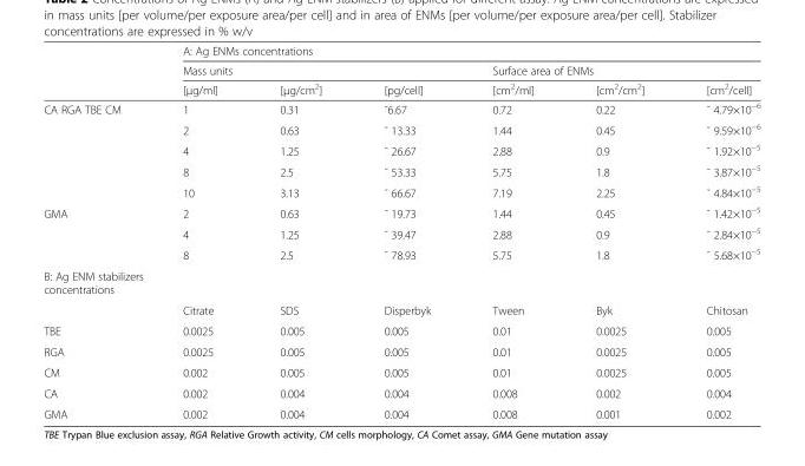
<table><thead><tr><td rowspan="3"></td><td colspan="6">A: Ag ENMs concentrations</td></tr><tr><td colspan="3">Mass units</td><td colspan="3">Surface area of ENMs</td></tr><tr><td>[μg/ml]</td><td>[μg/cm<sup>2</sup>]</td><td>[pg/cell]</td><td>[cm<sup>2</sup>/ml]</td><td>[cm<sup>2</sup>/cm<sup>2</sup>]</td><td>[cm<sup>2</sup>/cell]</td></tr></thead><tbody><tr><td rowspan="5">CA RGA TBE CM</td><td>1</td><td>0.31</td><td>˜6.67</td><td>0.72</td><td>0.22</td><td>˜ 4.79×10<sup>−6</sup></td></tr><tr><td>2</td><td>0.63</td><td>˜ 13.33</td><td>1.44</td><td>0.45</td><td>˜ 9.59×10<sup>−6</sup></td></tr><tr><td>4</td><td>1.25</td><td>˜ 26.67</td><td>2.88</td><td>0.9</td><td>˜ 1.92×10<sup>−5</sup></td></tr><tr><td>8</td><td>2.5</td><td>˜ 53.33</td><td>5.75</td><td>1.8</td><td>˜ 3.87×10<sup>−5</sup></td></tr><tr><td>10</td><td>3.13</td><td>˜ 66.67</td><td>7.19</td><td>2.25</td><td>˜ 4.84×10<sup>−5</sup></td></tr><tr><td rowspan="3">GMA</td><td>2</td><td>0.63</td><td>˜ 19.73</td><td>1.44</td><td>0.45</td><td>˜ 1.42×10<sup>−5</sup></td></tr><tr><td>4</td><td>1.25</td><td>˜ 39.47</td><td>2.88</td><td>0.9</td><td>˜ 2.84×10<sup>−5</sup></td></tr><tr><td>8</td><td>2.5</td><td>˜ 78.93</td><td>5.75</td><td>1.8</td><td>˜ 5.68×10<sup>−5</sup></td></tr><tr><td colspan="7">B: Ag ENM stabilizers concentrations</td></tr><tr><td></td><td>Citrate</td><td>SDS</td><td>Disperbyk</td><td>Tween</td><td>Byk</td><td>Chitosan</td></tr><tr><td>TBE</td><td>0.0025</td><td>0.005</td><td>0.005</td><td>0.01</td><td>0.0025</td><td>0.005</td></tr><tr><td>RGA</td><td>0.0025</td><td>0.005</td><td>0.005</td><td>0.01</td><td>0.0025</td><td>0.005</td></tr><tr><td>CM</td><td>0.002</td><td>0.005</td><td>0.005</td><td>0.01</td><td>0.0025</td><td>0.005</td></tr><tr><td>CA</td><td>0.002</td><td>0.004</td><td>0.004</td><td>0.008</td><td>0.002</td><td>0.004</td></tr><tr><td>GMA</td><td>0.002</td><td>0.004</td><td>0.004</td><td>0.008</td><td>0.001</td><td>0.002</td></tr></tbody></table>